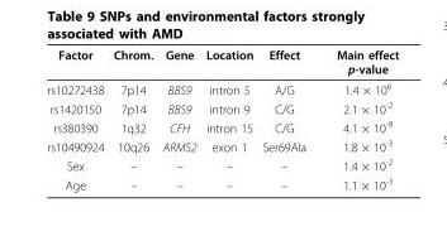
<table><thead><tr><td>Factor</td><td>Chrom.</td><td>Gene</td><td>Location</td><td>Effect</td><td>Main effect p-value</td></tr></thead><tbody><tr><td>rs10272438</td><td>7p14</td><td>BBS9</td><td>intron 5</td><td>A/G</td><td>1.4 × 10<sup>6</sup></td></tr><tr><td>rs1420150</td><td>7p14</td><td>BBS9</td><td>intron 9</td><td>C/G</td><td>2.1 × 10<sup>-2</sup></td></tr><tr><td>rs380390</td><td>1q32</td><td>CFH</td><td>intron 15</td><td>C/G</td><td>4.1 × 10<sup>-8</sup></td></tr><tr><td>rs10490924</td><td>10q26</td><td>ARMS2</td><td>exon 1</td><td>Ser69Ala</td><td>1.8 × 10<sup>-3</sup></td></tr><tr><td>Sex</td><td>–</td><td>–</td><td>–</td><td>–</td><td>1.4 × 10<sup>-2</sup></td></tr><tr><td>Age</td><td>–</td><td>–</td><td>–</td><td>–</td><td>1.1 × 10<sup>-3</sup></td></tr></tbody></table>